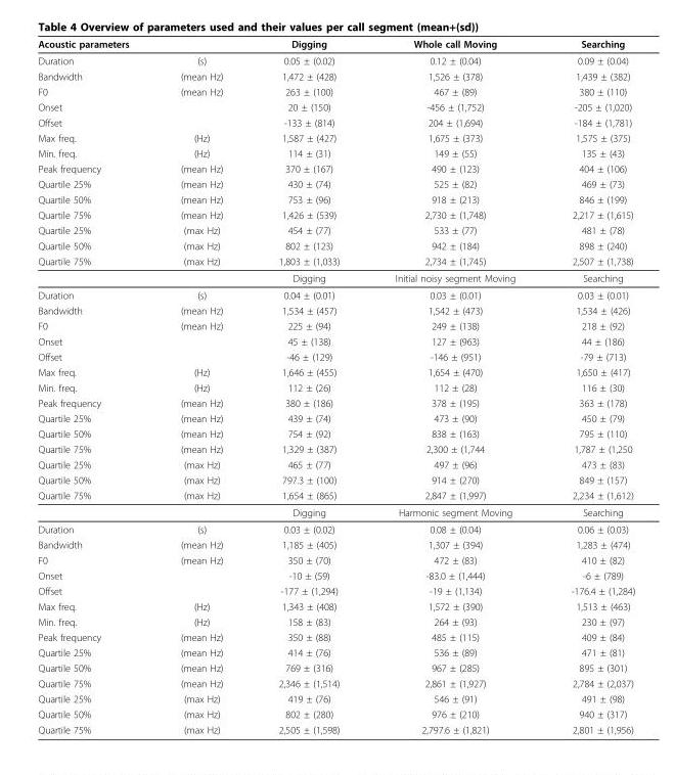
<table><thead><tr><td colspan="2">Acoustic parameters</td><td rowspan="2">Digging 0.05 ± (0.02)</td><td rowspan="2">Whole call Moving 0.12 ± (0.04)</td><td rowspan="2">Searching 0.09 ± (0.04)</td></tr><tr><td>Duration</td><td>(s)</td></tr></thead><tbody><tr><td>Bandwidth</td><td>(mean Hz)</td><td>1,472 ± (428)</td><td>1,526 ± (378)</td><td>1,439 ± (382)</td></tr><tr><td>F0</td><td>(mean Hz)</td><td>263 ± (100)</td><td>467 ± (89)</td><td>380 ± (110)</td></tr><tr><td>Onset</td><td></td><td>20 ± (150)</td><td>-456 ± (1,752)</td><td>-205 ± (1,020)</td></tr><tr><td>Offset</td><td></td><td>-133 ± (814)</td><td>204 ± (1,694)</td><td>-184 ± (1,781)</td></tr><tr><td>Max freq.</td><td>(Hz)</td><td>1,587 ± (427)</td><td>1,675 ± (373)</td><td>1,575 ± (375)</td></tr><tr><td>Min. freq.</td><td>(Hz)</td><td>114 ± (31)</td><td>149 ± (55)</td><td>135 ± (43)</td></tr><tr><td>Peak frequency</td><td>(mean Hz)</td><td>370 ± (167)</td><td>490 ± (123)</td><td>404 ± (106)</td></tr><tr><td>Quartile 25%</td><td>(mean Hz)</td><td>430 ± (74)</td><td>525 ± (82)</td><td>469 ± (73)</td></tr><tr><td>Quartile 50%</td><td>(mean Hz)</td><td>753 ± (96)</td><td>918 ± (213)</td><td>846 ± (199)</td></tr><tr><td>Quartile 75%</td><td>(mean Hz)</td><td>1,426 ± (539)</td><td>2,730 ± (1,748)</td><td>2,217 ± (1,615)</td></tr><tr><td>Quartile 25%</td><td>(max Hz)</td><td>454 ± (77)</td><td>533 ± (77)</td><td>481 ± (78)</td></tr><tr><td>Quartile 50%</td><td>(max Hz)</td><td>802 ± (123)</td><td>942 ± (184)</td><td>898 ± (240)</td></tr><tr><td rowspan="2">Quartile 75%</td><td>(max Hz)</td><td>1,803 ± (1,033)</td><td>2,734 ± (1,745)</td><td>2,507 ± (1,738)</td></tr><tr><td></td><td>Digging</td><td>Initial noisy segment Moving</td><td>Searching</td></tr><tr><td>Duration</td><td>(s)</td><td>0.04 ± (0.01)</td><td>0.03 ± (0.01)</td><td>0.03 ± (0.01)</td></tr><tr><td>Bandwidth</td><td>(mean Hz)</td><td>1,534 ± (457)</td><td>1,542 ± (473)</td><td>1,534 ± (426)</td></tr><tr><td>F0</td><td>(mean Hz)</td><td>225 ± (94)</td><td>249 ± (138)</td><td>218 ± (92)</td></tr><tr><td>Onset</td><td></td><td>45 ± (138)</td><td>127 ± (963)</td><td>44 ± (186)</td></tr><tr><td>Offset</td><td></td><td>-46 ± (129)</td><td>-146 ± (951)</td><td>-79 ± (713)</td></tr><tr><td>Max freq.</td><td>(Hz)</td><td>1,646 ± (455)</td><td>1,654 ± (470)</td><td>1,650 ± (417)</td></tr><tr><td>Min. freq.</td><td>(Hz)</td><td>112 ± (26)</td><td>112 ± (28)</td><td>116 ± (30)</td></tr><tr><td>Peak frequency</td><td>(mean Hz)</td><td>380 ± (186)</td><td>378 ± (195)</td><td>363 ± (178)</td></tr><tr><td>Quartile 25%</td><td>(mean Hz)</td><td>439 ± (74)</td><td>473 ± (90)</td><td>450 ± (79)</td></tr><tr><td>Quartile 50%</td><td>(mean Hz)</td><td>754 ± (92)</td><td>838 ± (163)</td><td>795 ± (110)</td></tr><tr><td>Quartile 75%</td><td>(mean Hz)</td><td>1,329 ± (387)</td><td>2,300 ± (1,744</td><td>1,787 ± (1,250</td></tr><tr><td>Quartile 25%</td><td>(max Hz)</td><td>465 ± (77)</td><td>497 ± (96)</td><td>473 ± (83)</td></tr><tr><td>Quartile 50%</td><td>(max Hz)</td><td>797.3 ± (100)</td><td>914 ± (270)</td><td>849 ± (157)</td></tr><tr><td rowspan="2">Quartile 75%</td><td>(max Hz)</td><td>1,654 ± (865)</td><td>2,847 ± (1,997)</td><td>2,234 ± (1,612)</td></tr><tr><td></td><td>Digging</td><td>Harmonic segment Moving</td><td>Searching</td></tr><tr><td>Duration</td><td>(s)</td><td>0.03 ± (0.02)</td><td>0.08 ± (0.04)</td><td>0.06 ± (0.03)</td></tr><tr><td>Bandwidth</td><td>(mean Hz)</td><td>1,185 ± (405)</td><td>1,307 ± (394)</td><td>1,283 ± (474)</td></tr><tr><td>F0</td><td>(mean Hz)</td><td>350 ± (70)</td><td>472 ± (83)</td><td>410 ± (82)</td></tr><tr><td>Onset</td><td></td><td>-10 ± (59)</td><td>-83.0 ± (1,444)</td><td>-6 ± (789)</td></tr><tr><td>Offset</td><td></td><td>-177 ± (1,294)</td><td>-19 ± (1,134)</td><td>-176.4 ± (1,284)</td></tr><tr><td>Max freq.</td><td>(Hz)</td><td>1,343 ± (408)</td><td>1,572 ± (390)</td><td>1,513 ± (463)</td></tr><tr><td>Min. freq.</td><td>(Hz)</td><td>158 ± (83)</td><td>264 ± (93)</td><td>230 ± (97)</td></tr><tr><td>Peak frequency</td><td>(mean Hz)</td><td>350 ± (88)</td><td>485 ± (115)</td><td>409 ± (84)</td></tr><tr><td>Quartile 25%</td><td>(mean Hz)</td><td>414 ± (76)</td><td>536 ± (89)</td><td>471 ± (81)</td></tr><tr><td>Quartile 50%</td><td>(mean Hz)</td><td>769 ± (316)</td><td>967 ± (285)</td><td>895 ± (301)</td></tr><tr><td>Quartile 75%</td><td>(mean Hz)</td><td>2,346 ± (1,514)</td><td>2,861 ± (1,927)</td><td>2,784 ± (2,037)</td></tr><tr><td>Quartile 25%</td><td>(max Hz)</td><td>419 ± (76)</td><td>546 ± (91)</td><td>491 ± (98)</td></tr><tr><td>Quartile 50%</td><td>(max Hz)</td><td>802 ± (280)</td><td>976 ± (210)</td><td>940 ± (317)</td></tr><tr><td>Quartile 75%</td><td>(max Hz)</td><td>2,505 ± (1,598)</td><td>2,797.6 ± (1,821)</td><td>2,801 ± (1,956)</td></tr></tbody></table>